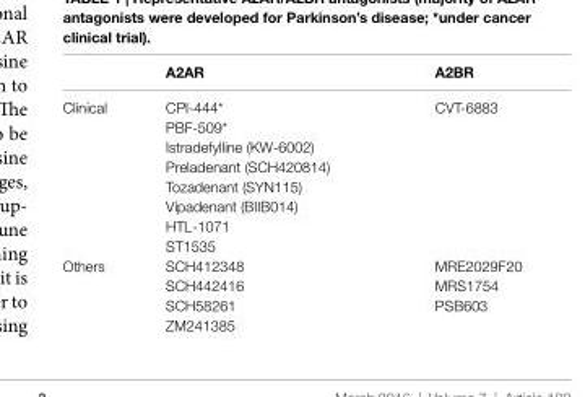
<table><thead><tr><td></td><td>A2AR</td><td>A2BR</td></tr></thead><tbody><tr><td rowspan="8">Clinical</td><td>CPI-444*</td><td>CVT-6883</td></tr><tr><td>PBF-509*</td><td></td></tr><tr><td>Istradefylline (KW-6002)</td><td></td></tr><tr><td>Preladenant (SCH420814)</td><td></td></tr><tr><td>Tozadenant (SYN115)</td><td></td></tr><tr><td>Vipadenant (BIIB014)</td><td></td></tr><tr><td>HTL-1071</td><td></td></tr><tr><td>ST1535</td><td></td></tr><tr><td rowspan="4">Others</td><td>SCH412348</td><td>MRE2029F20</td></tr><tr><td>SCH442416</td><td>MRS1754</td></tr><tr><td>SCH58261</td><td>PSB603</td></tr><tr><td>ZM241385</td><td></td></tr></tbody></table>